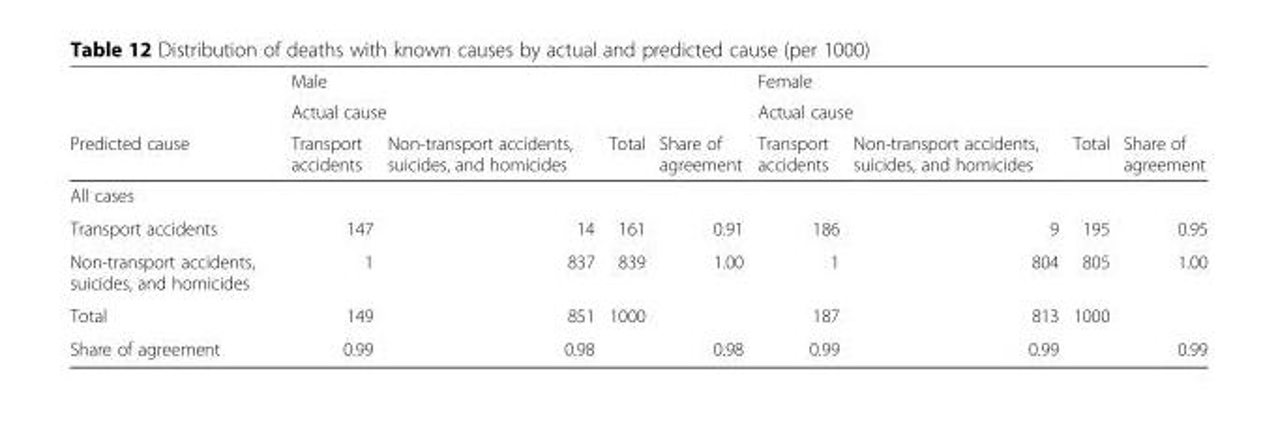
<table><thead><tr><td rowspan="3">Predicted cause</td><td colspan="4">Male</td><td colspan="4">Female</td></tr><tr><td colspan="3">Actual cause</td><td rowspan="2">Share of agreement</td><td colspan="3">Actual cause</td><td rowspan="2">Share of agreement</td></tr><tr><td>Transport accidents</td><td>Non-transport accidents, suicides, and homicides</td><td>Total</td><td>Transport accidents</td><td>Non-transport accidents, suicides, and homicides</td><td>Total</td></tr></thead><tbody><tr><td colspan="9">All cases</td></tr><tr><td>Transport accidents</td><td>147</td><td>14</td><td>161</td><td>0.91</td><td>186</td><td>9</td><td>195</td><td>0.95</td></tr><tr><td>Non-transport accidents, suicides, and homicides</td><td>1</td><td>837</td><td>839</td><td>1.00</td><td>1</td><td>804</td><td>805</td><td>1.00</td></tr><tr><td>Total</td><td>149</td><td>851</td><td>1000</td><td></td><td>187</td><td>813</td><td>1000</td><td></td></tr><tr><td>Share of agreement</td><td>0.99</td><td>0.98</td><td></td><td>0.98</td><td>0.99</td><td>0.99</td><td></td><td>0.99</td></tr></tbody></table>